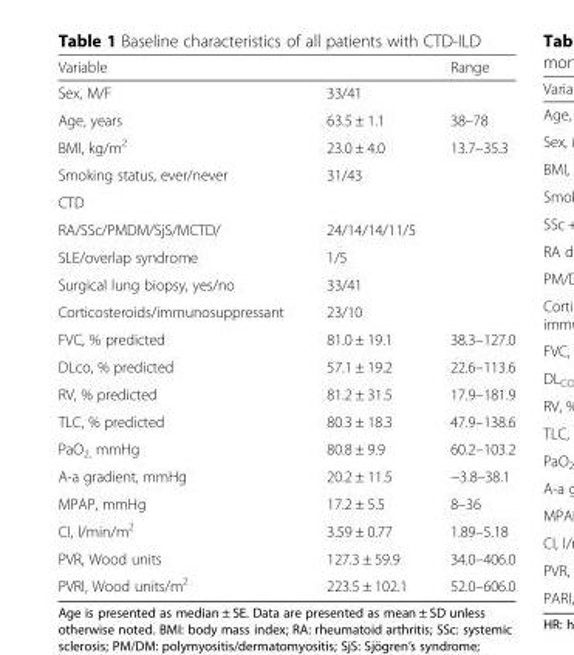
<table><thead><tr><td>Variable</td><td></td><td>Range</td></tr></thead><tbody><tr><td>Sex, M/F</td><td colspan="2">33/41</td></tr><tr><td>Age, years</td><td>63.5 ± 1.1</td><td>38–78</td></tr><tr><td>BMI, kg/m<sup>2</sup></td><td>23.0 ± 4.0</td><td>13.7–35.3</td></tr><tr><td>Smoking status, ever/never</td><td colspan="2">31/43</td></tr><tr><td colspan="3">CTD</td></tr><tr><td>RA/SSc/PMDM/SjS/MCTD/</td><td colspan="2">24/14/14/11/5</td></tr><tr><td>SLE/overlap syndrome</td><td colspan="2">1/5</td></tr><tr><td>Surgical lung biopsy, yes/no</td><td colspan="2">33/41</td></tr><tr><td>Corticosteroids/immunosuppressant</td><td colspan="2">23/10</td></tr><tr><td>FVC, % predicted</td><td>81.0 ± 19.1</td><td>38.3–127.0</td></tr><tr><td>DLco, % predicted</td><td>57.1 ± 19.2</td><td>22.6–113.6</td></tr><tr><td>RV, % predicted</td><td>81.2 ± 31.5</td><td>17.9–181.9</td></tr><tr><td>TLC, % predicted</td><td>80.3 ± 18.3</td><td>47.9–138.6</td></tr><tr><td>PaO<sub>2,</sub> mmHg</td><td>80.8 ± 9.9</td><td>60.2–103.2</td></tr><tr><td>A-a gradient, mmHg</td><td>20.2 ± 11.5</td><td>−3.8–38.1</td></tr><tr><td>MPAP, mmHg</td><td>17.2 ± 5.5</td><td>8–36</td></tr><tr><td>CI, l/min/m<sup>2</sup></td><td>3.59 ± 0.77</td><td>1.89–5.18</td></tr><tr><td>PVR, Wood units</td><td>127.3 ± 59.9</td><td>34.0–406.0</td></tr><tr><td>PVRI, Wood units/m<sup>2</sup></td><td>223.5 ± 102.1</td><td>52.0–606.0</td></tr></tbody></table>